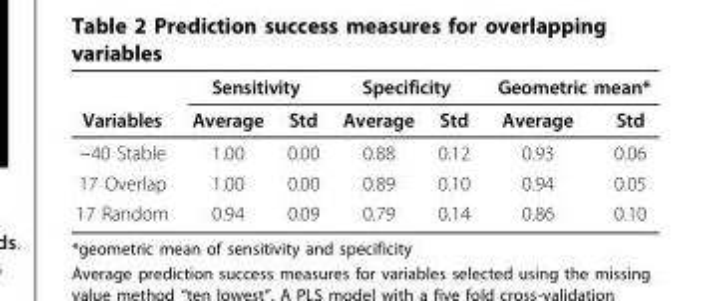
<table><thead><tr><td rowspan="2">Variables</td><td colspan="2">Sensitivity</td><td colspan="2">Specificity</td><td colspan="2">Geometric mean*</td></tr><tr><td>Average</td><td>Std</td><td>Average</td><td>Std</td><td>Average</td><td>Std</td></tr></thead><tbody><tr><td>~40 Stable</td><td>1.00</td><td>0.00</td><td>0.88</td><td>0.12</td><td>0.93</td><td>0.06</td></tr><tr><td>17 Overlap</td><td>1.00</td><td>0.00</td><td>0.89</td><td>0.10</td><td>0.94</td><td>0.05</td></tr><tr><td>17 Random</td><td>0.94</td><td>0.09</td><td>0.79</td><td>0.14</td><td>0.86</td><td>0.10</td></tr></tbody></table>